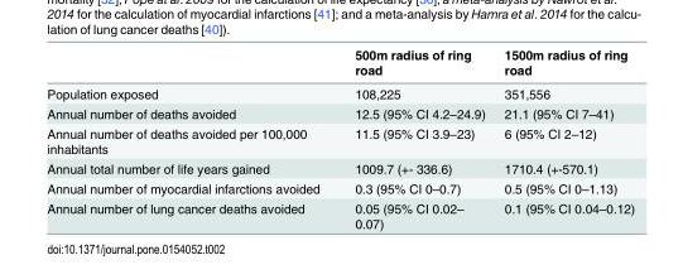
<table><thead><tr><td></td><td>500m radius of ring road</td><td>1500m radius of ring road</td></tr></thead><tbody><tr><td>Population exposed</td><td>108,225</td><td>351,556</td></tr><tr><td>Annual number of deaths avoided</td><td>12.5 (95% CI 4.2–24.9)</td><td>21.1 (95% CI 7–41)</td></tr><tr><td>Annual number of deaths avoided per 100,000 inhabitants</td><td>11.5 (95% CI 3.9–23)</td><td>6 (95% CI 2–12)</td></tr><tr><td>Annual total number of life years gained</td><td>1009.7 (+- 336.6)</td><td>1710.4 (+-570.1)</td></tr><tr><td>Annual number of myocardial infarctions avoided</td><td>0.3 (95% CI 0–0.7)</td><td>0.5 (95% CI 0–1.13)</td></tr><tr><td>Annual number of lung cancer deaths avoided</td><td>0.05 (95% CI 0.02– 0.07)</td><td>0.1 (95% CI 0.04–0.12)</td></tr></tbody></table>